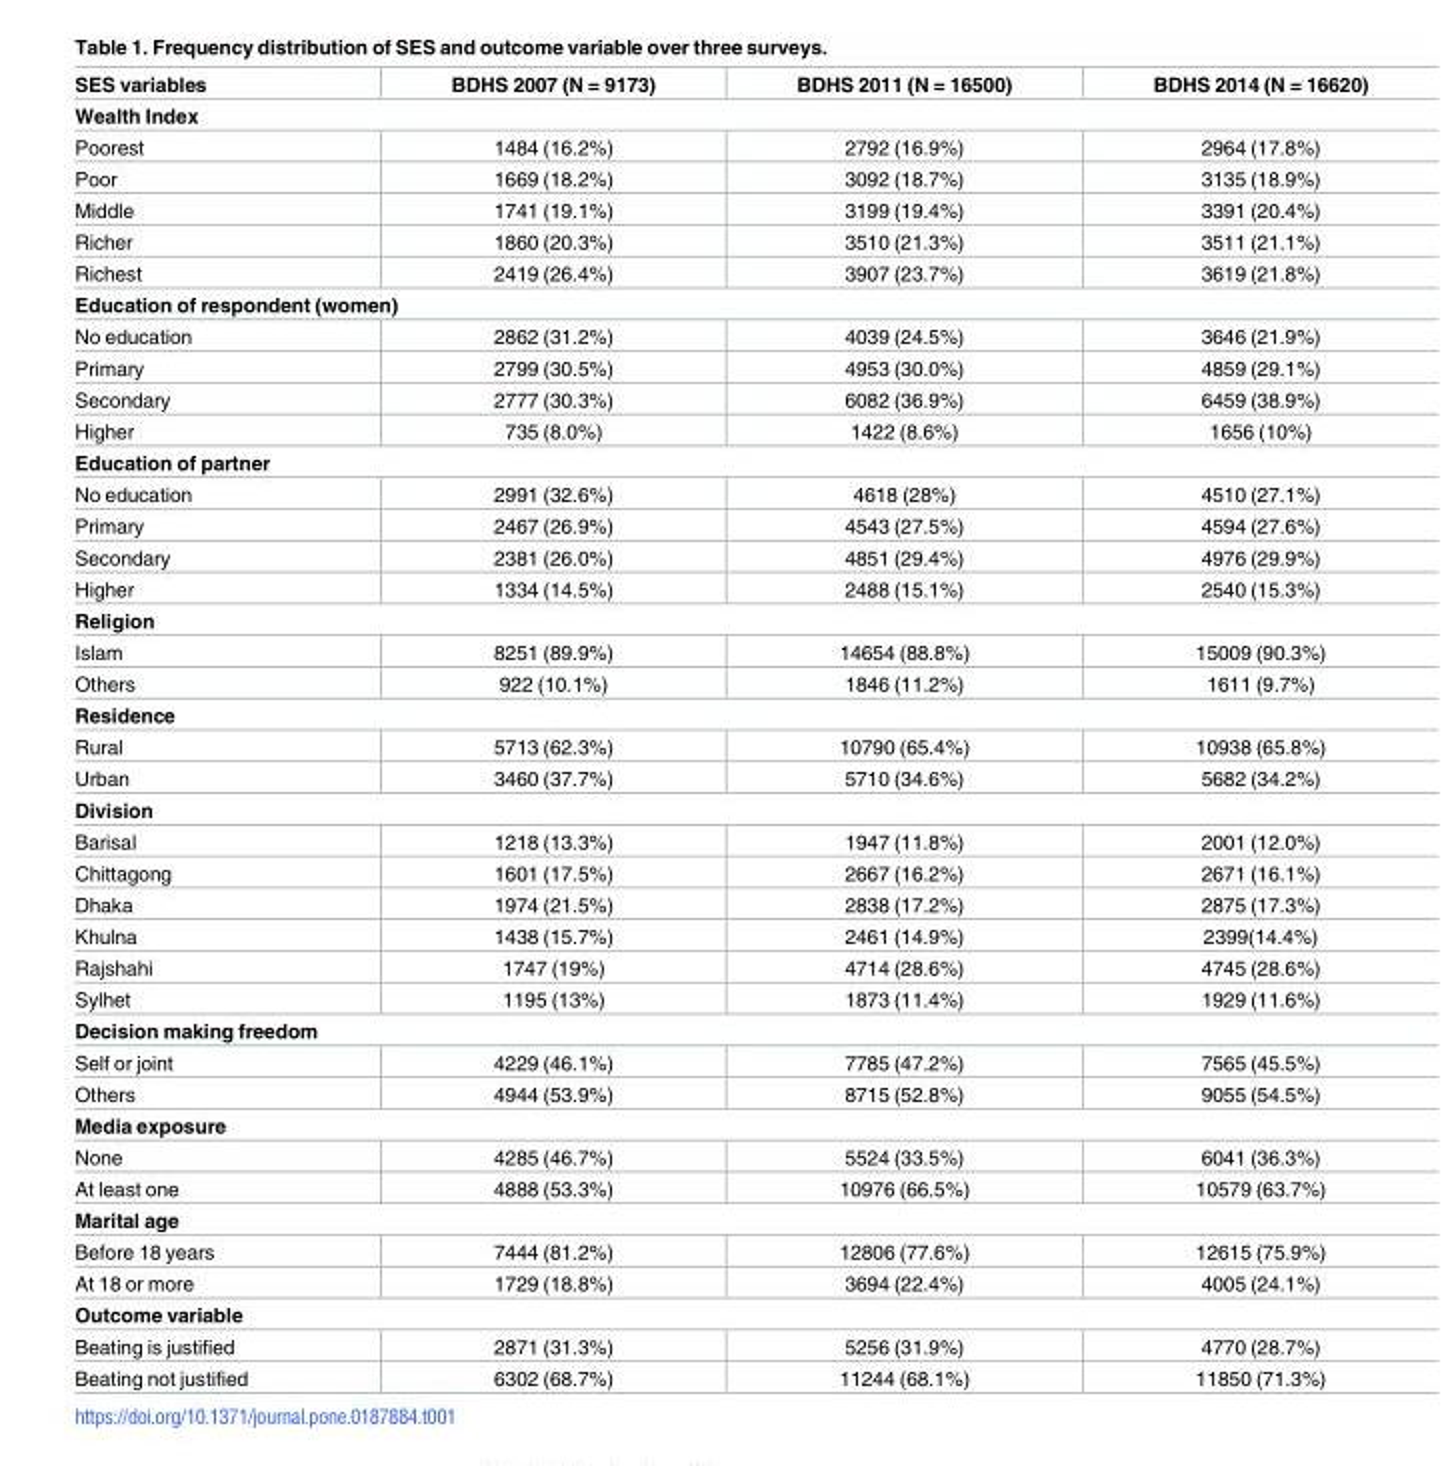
<table><thead><tr><td>SES variables</td><td>BDHS 2007 (N = 9173)</td><td>BDHS 2011 (N = 16500)</td><td>BDHS 2014 (N = 16620)</td></tr></thead><tbody><tr><td colspan="4">Wealth Index</td></tr><tr><td>Poorest</td><td>1484 (16.2%)</td><td>2792 (16.9%)</td><td>2964 (17.8%)</td></tr><tr><td>Poor</td><td>1669 (18.2%)</td><td>3092 (18.7%)</td><td>3135 (18.9%)</td></tr><tr><td>Middle</td><td>1741 (19.1%)</td><td>3199 (19.4%)</td><td>3391 (20.4%)</td></tr><tr><td>Richer</td><td>1860 (20.3%)</td><td>3510 (21.3%)</td><td>3511 (21.1%)</td></tr><tr><td>Richest</td><td>2419 (26.4%)</td><td>3907 (23.7%)</td><td>3619 (21.8%)</td></tr><tr><td colspan="4">Education of respondent (women)</td></tr><tr><td>No education</td><td>2862 (31.2%)</td><td>4039 (24.5%)</td><td>3646 (21.9%)</td></tr><tr><td>Primary</td><td>2799 (30.5%)</td><td>4953 (30.0%)</td><td>4859 (29.1%)</td></tr><tr><td>Secondary</td><td>2777 (30.3%)</td><td>6082 (36.9%)</td><td>6459 (38.9%)</td></tr><tr><td>Higher</td><td>735 (8.0%)</td><td>1422 (8.6%)</td><td>1656 (10%)</td></tr><tr><td colspan="4">Education of partner</td></tr><tr><td>No education</td><td>2991 (32.6%)</td><td>4618 (28%)</td><td>4510 (27.1%)</td></tr><tr><td>Primary</td><td>2467 (26.9%)</td><td>4543 (27.5%)</td><td>4594 (27.6%)</td></tr><tr><td>Secondary</td><td>2381 (26.0%)</td><td>4851 (29.4%)</td><td>4976 (29.9%)</td></tr><tr><td>Higher</td><td>1334 (14.5%)</td><td>2488 (15.1%)</td><td>2540 (15.3%)</td></tr><tr><td colspan="4">Religion</td></tr><tr><td>Islam</td><td>8251 (89.9%)</td><td>14654 (88.8%)</td><td>15009 (90.3%)</td></tr><tr><td>Others</td><td>922 (10.1%)</td><td>1846 (11.2%)</td><td>1611 (9.7%)</td></tr><tr><td colspan="4">Residence</td></tr><tr><td>Rural</td><td>5713 (62.3%)</td><td>10790 (65.4%)</td><td>10938 (65.8%)</td></tr><tr><td>Urban</td><td>3460 (37.7%)</td><td>5710 (34.6%)</td><td>5682 (34.2%)</td></tr><tr><td colspan="4">Division</td></tr><tr><td>Barisal</td><td>1218 (13.3%)</td><td>1947 (11.8%)</td><td>2001 (12.0%)</td></tr><tr><td>Chittagong</td><td>1601 (17.5%)</td><td>2667 (16.2%)</td><td>2671 (16.1%)</td></tr><tr><td>Dhaka</td><td>1974 (21.5%)</td><td>2838 (17.2%)</td><td>2875 (17.3%)</td></tr><tr><td>Khulna</td><td>1438 (15.7%)</td><td>2461 (14.9%)</td><td>2399(14.4%)</td></tr><tr><td>Rajshahi</td><td>1747 (19%)</td><td>4714 (28.6%)</td><td>4745 (28.6%)</td></tr><tr><td>Sylhet</td><td>1195 (13%)</td><td>1873 (11.4%)</td><td>1929 (11.6%)</td></tr><tr><td colspan="4">Decision making freedom</td></tr><tr><td>Self or joint</td><td>4229 (46.1%)</td><td>7785 (47.2%)</td><td>7565 (45.5%)</td></tr><tr><td>Others</td><td>4944 (53.9%)</td><td>8715 (52.8%)</td><td>9055 (54.5%)</td></tr><tr><td colspan="4">Media exposure</td></tr><tr><td>None</td><td>4285 (46.7%)</td><td>5524 (33.5%)</td><td>6041 (36.3%)</td></tr><tr><td>At least one</td><td>4888 (53.3%)</td><td>10976 (66.5%)</td><td>10579 (63.7%)</td></tr><tr><td colspan="4">Marital age</td></tr><tr><td>Before 18 years</td><td>7444 (81.2%)</td><td>12806 (77.6%)</td><td>12615 (75.9%)</td></tr><tr><td>At 18 or more</td><td>1729 (18.8%)</td><td>3694 (22.4%)</td><td>4005 (24.1%)</td></tr><tr><td colspan="4">Outcome variable</td></tr><tr><td>Beating is justified</td><td>2871 (31.3%)</td><td>5256 (31.9%)</td><td>4770 (28.7%)</td></tr><tr><td>Beating not justified</td><td>6302 (68.7%)</td><td>11244 (68.1%)</td><td>11850 (71.3%)</td></tr></tbody></table>